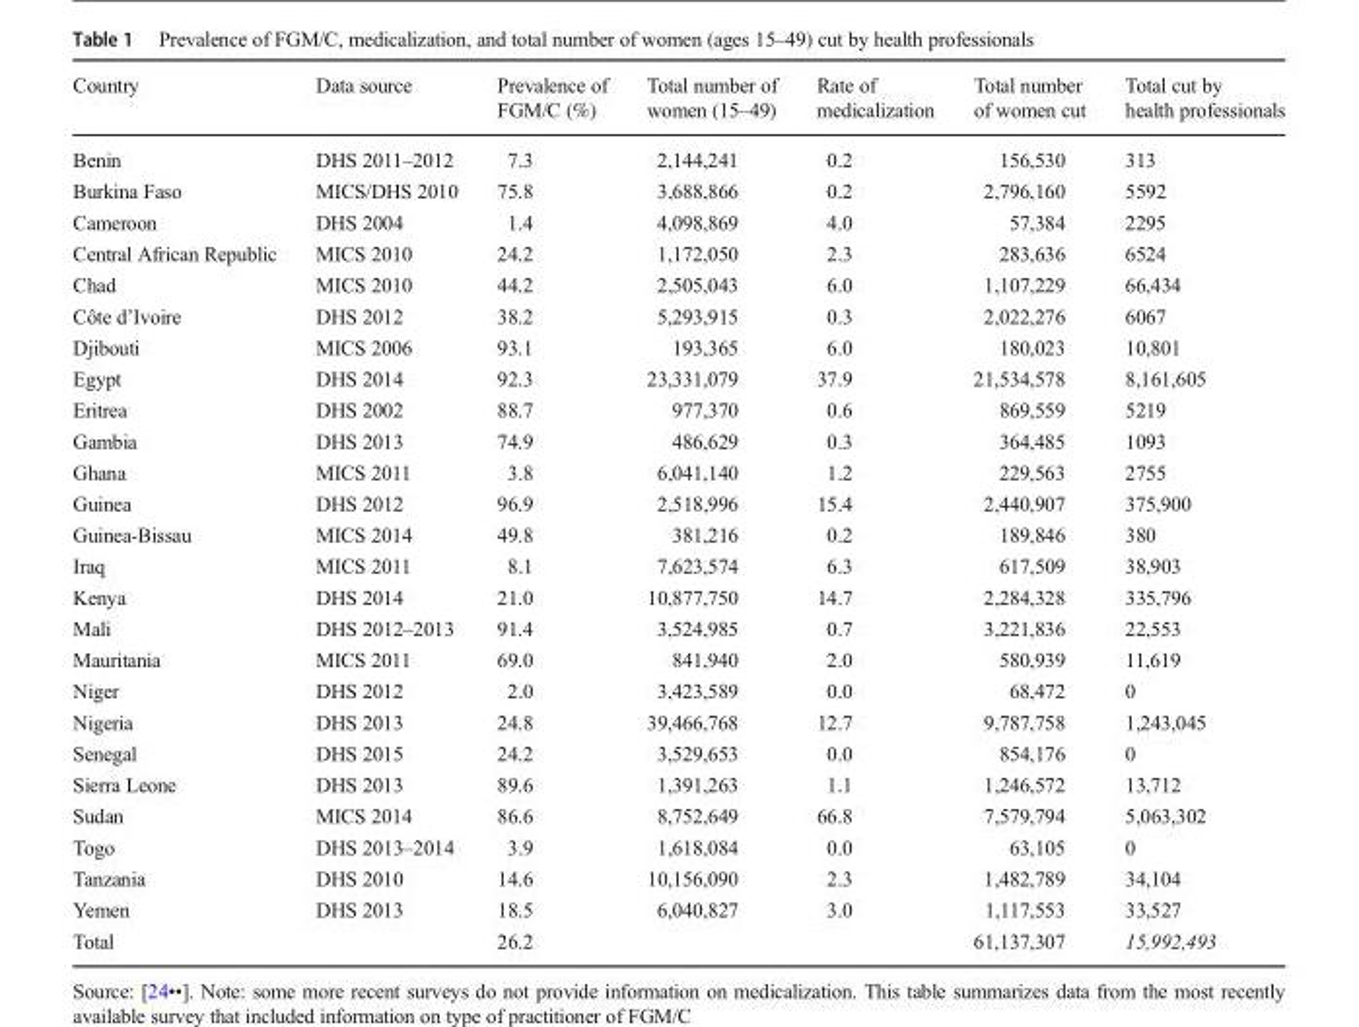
<table><thead><tr><td>Country</td><td>Data source</td><td>Prevalence of FGM/C (%)</td><td>Total number of women (15–49)</td><td>Rate of medicalization</td><td>Total number of women cut</td><td>Total cut by health professionals</td></tr></thead><tbody><tr><td>Benin</td><td>DHS 2011–2012</td><td>7.3</td><td>2,144,241</td><td>0.2</td><td>156,530</td><td>313</td></tr><tr><td>Burkina Faso</td><td>MICS/DHS 2010</td><td>75.8</td><td>3,688,866</td><td>0.2</td><td>2,796,160</td><td>5592</td></tr><tr><td>Cameroon</td><td>DHS 2004</td><td>1.4</td><td>4,098,869</td><td>4.0</td><td>57,384</td><td>2295</td></tr><tr><td>Central African Republic</td><td>MICS 2010</td><td>24.2</td><td>1,172,050</td><td>2.3</td><td>283,636</td><td>6524</td></tr><tr><td>Chad</td><td>MICS 2010</td><td>44.2</td><td>2,505,043</td><td>6.0</td><td>1,107,229</td><td>66,434</td></tr><tr><td>Côte d’Ivoire</td><td>DHS 2012</td><td>38.2</td><td>5,293,915</td><td>0.3</td><td>2,022,276</td><td>6067</td></tr><tr><td>Djibouti</td><td>MICS 2006</td><td>93.1</td><td>193,365</td><td>6.0</td><td>180,023</td><td>10,801</td></tr><tr><td>Egypt</td><td>DHS 2014</td><td>92.3</td><td>23,331,079</td><td>37.9</td><td>21,534,578</td><td>8,161,605</td></tr><tr><td>Eritrea</td><td>DHS 2002</td><td>88.7</td><td>977,370</td><td>0.6</td><td>869,559</td><td>5219</td></tr><tr><td>Gambia</td><td>DHS 2013</td><td>74.9</td><td>486,629</td><td>0.3</td><td>364,485</td><td>1093</td></tr><tr><td>Ghana</td><td>MICS 2011</td><td>3.8</td><td>6,041,140</td><td>1.2</td><td>229,563</td><td>2755</td></tr><tr><td>Guinea</td><td>DHS 2012</td><td>96.9</td><td>2,518,996</td><td>15.4</td><td>2,440,907</td><td>375,900</td></tr><tr><td>Guinea-Bissau</td><td>MICS 2014</td><td>49.8</td><td>381,216</td><td>0.2</td><td>189,846</td><td>380</td></tr><tr><td>Iraq</td><td>MICS 2011</td><td>8.1</td><td>7,623,574</td><td>6.3</td><td>617,509</td><td>38,903</td></tr><tr><td>Kenya</td><td>DHS 2014</td><td>21.0</td><td>10,877,750</td><td>14.7</td><td>2,284,328</td><td>335,796</td></tr><tr><td>Mali</td><td>DHS 2012–2013</td><td>91.4</td><td>3,524,985</td><td>0.7</td><td>3,221,836</td><td>22,553</td></tr><tr><td>Mauritania</td><td>MICS 2011</td><td>69.0</td><td>841,940</td><td>2.0</td><td>580,939</td><td>11,619</td></tr><tr><td>Niger</td><td>DHS 2012</td><td>2.0</td><td>3,423,589</td><td>0.0</td><td>68,472</td><td>0</td></tr><tr><td>Nigeria</td><td>DHS 2013</td><td>24.8</td><td>39,466,768</td><td>12.7</td><td>9,787,758</td><td>1,243,045</td></tr><tr><td>Senegal</td><td>DHS 2015</td><td>24.2</td><td>3,529,653</td><td>0.0</td><td>854,176</td><td>0</td></tr><tr><td>Sierra Leone</td><td>DHS 2013</td><td>89.6</td><td>1,391,263</td><td>1.1</td><td>1,246,572</td><td>13,712</td></tr><tr><td>Sudan</td><td>MICS 2014</td><td>86.6</td><td>8,752,649</td><td>66.8</td><td>7,579,794</td><td>5,063,302</td></tr><tr><td>Togo</td><td>DHS 2013–2014</td><td>3.9</td><td>1,618,084</td><td>0.0</td><td>63,105</td><td>0</td></tr><tr><td>Tanzania</td><td>DHS 2010</td><td>14.6</td><td>10,156,090</td><td>2.3</td><td>1,482,789</td><td>34,104</td></tr><tr><td>Yemen</td><td>DHS 2013</td><td>18.5</td><td>6,040,827</td><td>3.0</td><td>1,117,553</td><td>33,527</td></tr><tr><td>Total</td><td></td><td>26.2</td><td></td><td></td><td>61,137,307</td><td>15,992,493</td></tr></tbody></table>